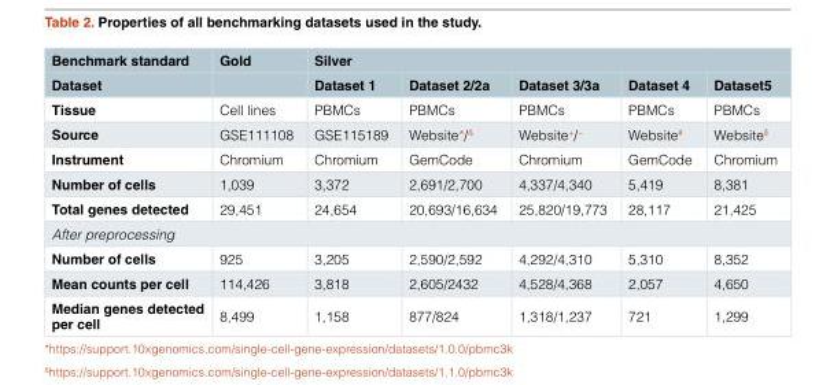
<table><thead><tr><td rowspan="2">Benchmark standard Dataset</td><td rowspan="2">Gold</td><td colspan="5">Silver</td></tr><tr><td>Dataset 1</td><td>Dataset 2/2a</td><td>Dataset 3/3a</td><td>Dataset 4</td><td>Dataset5</td></tr></thead><tbody><tr><td>Tissue</td><td>Cell lines</td><td>PBMCs</td><td>PBMCs</td><td>PBMCs</td><td>PBMCs</td><td>PBMCs</td></tr><tr><td>Source</td><td>GSE111108</td><td>GSE115189</td><td>Website*/<sup>&amp;</sup></td><td>Website<sup>+</sup>/<sup>−</sup></td><td>Website<sup>#</sup></td><td>Website<sup>$</sup></td></tr><tr><td>Instrument</td><td>Chromium</td><td>Chromium</td><td>GemCode</td><td>Chromium</td><td>GemCode</td><td>Chromium</td></tr><tr><td>Number of cells</td><td>1,039</td><td>3,372</td><td>2,691/2,700</td><td>4,337/4,340</td><td>5,419</td><td>8,381</td></tr><tr><td>Total genes detected</td><td>29,451</td><td>24,654</td><td>20,693/16,634</td><td>25,820/19,773</td><td>28,117</td><td>21,425</td></tr><tr><td colspan="7">After preprocessing</td></tr><tr><td>Number of cells</td><td>925</td><td>3,205</td><td>2,590/2,592</td><td>4,292/4,310</td><td>5,310</td><td>8,352</td></tr><tr><td>Mean counts per cell</td><td>114,426</td><td>3,818</td><td>2,605/2432</td><td>4,528/4,368</td><td>2,057</td><td>4,650</td></tr><tr><td>Median genes detected per cell</td><td>8,499</td><td>1,158</td><td>877/824</td><td>1,318/1,237</td><td>721</td><td>1,299</td></tr></tbody></table>